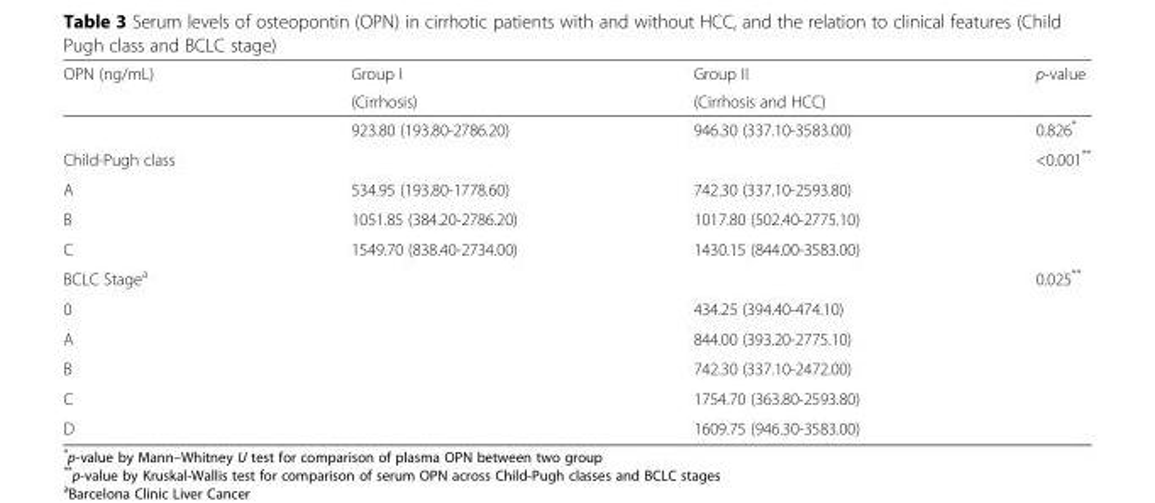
<table><thead><tr><td rowspan="2">OPN (ng/mL)</td><td rowspan="2">Group I (Cirrhosis)</td><td rowspan="2">Group II (Cirrhosis and HCC)</td><td rowspan="2">p-value</td></tr><tr></tr></thead><tbody><tr><td></td><td>923.80 (193.80-2786.20)</td><td>946.30 (337.10-3583.00)</td><td>0.826*</td></tr><tr><td colspan="3">Child-Pugh class</td><td rowspan="4">&lt;0.001**</td></tr><tr><td>A</td><td>534.95 (193.80-1778.60)</td><td>742.30 (337.10-2593.80)</td></tr><tr><td>B</td><td>1051.85 (384.20-2786.20)</td><td>1017.80 (502.40-2775.10)</td></tr><tr><td>C</td><td>1549.70 (838.40-2734.00)</td><td>1430.15 (844.00-3583.00)</td></tr><tr><td colspan="3">BCLC Stage<sup>a</sup></td><td rowspan="6">0.025**</td></tr><tr><td>0</td><td></td><td>434.25 (394.40-474.10)</td></tr><tr><td>A</td><td></td><td>844.00 (393.20-2775.10)</td></tr><tr><td>B</td><td></td><td>742.30 (337.10-2472.00)</td></tr><tr><td>C</td><td></td><td>1754.70 (363.80-2593.80)</td></tr><tr><td>D</td><td></td><td>1609.75 (946.30-3583.00)</td></tr></tbody></table>